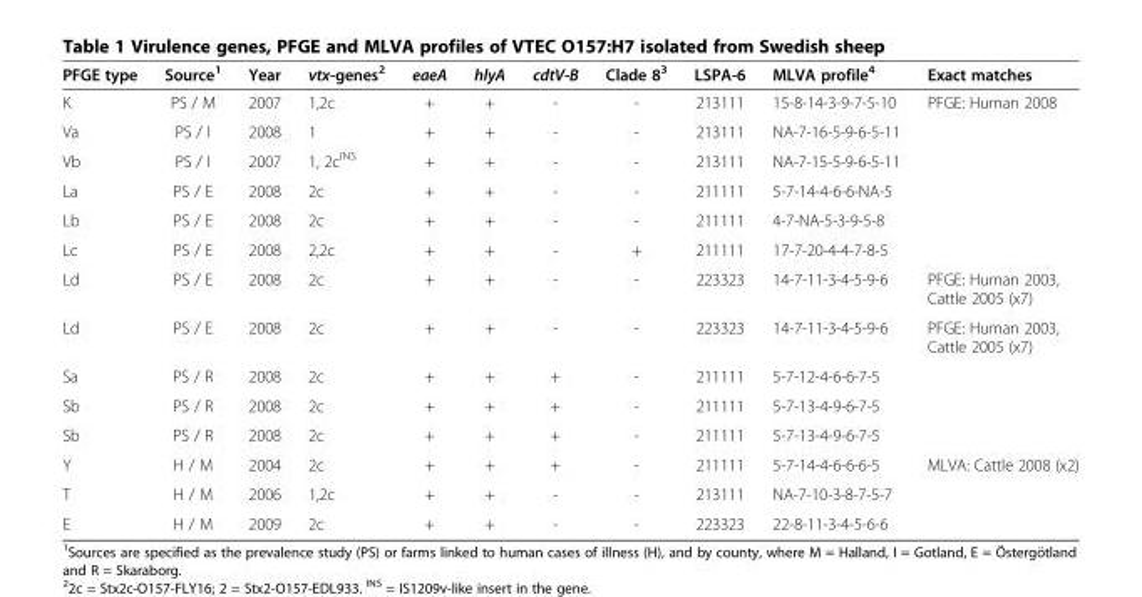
<table><thead><tr><td>PFGE type</td><td>Source<sup>1</sup></td><td>Year</td><td>vtx-genes<sup>2</sup></td><td>eaeA</td><td>hlyA</td><td>cdtV-B</td><td>Clade 8<sup>3</sup></td><td>LSPA-6</td><td>MLVA profile<sup>4</sup></td><td>Exact matches</td></tr></thead><tbody><tr><td>K</td><td>PS / M</td><td>2007</td><td>1,2c</td><td>+</td><td>+</td><td>-</td><td>-</td><td>213111</td><td>15-8-14-3-9-7-5-10</td><td>PFGE: Human 2008</td></tr><tr><td>Va</td><td>PS / I</td><td>2008</td><td>1</td><td>+</td><td>+</td><td>-</td><td>-</td><td>213111</td><td>NA-7-16-5-9-6-5-11</td><td></td></tr><tr><td>Vb</td><td>PS / I</td><td>2007</td><td>1, 2c<sup>INS</sup></td><td>+</td><td>+</td><td>-</td><td>-</td><td>213111</td><td>NA-7-15-5-9-6-5-11</td><td></td></tr><tr><td>La</td><td>PS / E</td><td>2008</td><td>2c</td><td>+</td><td>+</td><td>-</td><td>-</td><td>211111</td><td>5-7-14-4-6-6-NA-5</td><td></td></tr><tr><td>Lb</td><td>PS / E</td><td>2008</td><td>2c</td><td>+</td><td>+</td><td>-</td><td>-</td><td>211111</td><td>4-7-NA-5-3-9-5-8</td><td></td></tr><tr><td>Lc</td><td>PS / E</td><td>2008</td><td>2,2c</td><td>+</td><td>+</td><td>-</td><td>+</td><td>211111</td><td>17-7-20-4-4-7-8-5</td><td></td></tr><tr><td>Ld</td><td>PS / E</td><td>2008</td><td>2c</td><td>+</td><td>+</td><td>-</td><td>-</td><td>223323</td><td>14-7-11-3-4-5-9-6</td><td>PFGE: Human 2003, Cattle 2005 (x7)</td></tr><tr><td>Ld</td><td>PS / E</td><td>2008</td><td>2c</td><td>+</td><td>+</td><td>-</td><td>-</td><td>223323</td><td>14-7-11-3-4-5-9-6</td><td>PFGE: Human 2003, Cattle 2005 (x7)</td></tr><tr><td>Sa</td><td>PS / R</td><td>2008</td><td>2c</td><td>+</td><td>+</td><td>+</td><td>-</td><td>211111</td><td>5-7-12-4-6-6-7-5</td><td></td></tr><tr><td>Sb</td><td>PS / R</td><td>2008</td><td>2c</td><td>+</td><td>+</td><td>+</td><td>-</td><td>211111</td><td>5-7-13-4-9-6-7-5</td><td></td></tr><tr><td>Sb</td><td>PS / R</td><td>2008</td><td>2c</td><td>+</td><td>+</td><td>+</td><td>-</td><td>211111</td><td>5-7-13-4-9-6-7-5</td><td></td></tr><tr><td>Y</td><td>H / M</td><td>2004</td><td>2c</td><td>+</td><td>+</td><td>+</td><td>-</td><td>211111</td><td>5-7-14-4-6-6-6-5</td><td>MLVA: Cattle 2008 (x2)</td></tr><tr><td>T</td><td>H / M</td><td>2006</td><td>1,2c</td><td>+</td><td>+</td><td>-</td><td>-</td><td>213111</td><td>NA-7-10-3-8-7-5-7</td><td></td></tr><tr><td>E</td><td>H / M</td><td>2009</td><td>2c</td><td>+</td><td>+</td><td>-</td><td>-</td><td>223323</td><td>22-8-11-3-4-5-6-6</td><td></td></tr></tbody></table>